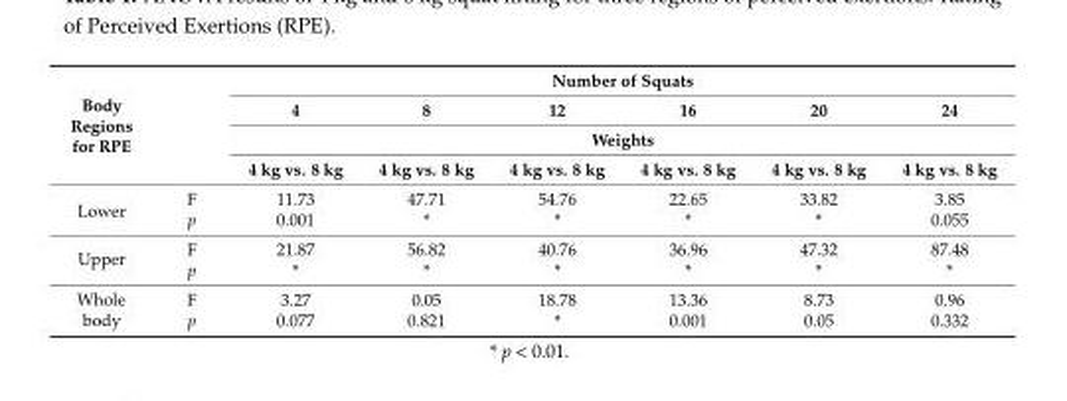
<table><thead><tr><td rowspan="4">Body Regions for RPE</td><td rowspan="4"></td><td colspan="6">Number of Squats</td></tr><tr><td>4</td><td>8</td><td>12</td><td>16</td><td>20</td><td>24</td></tr><tr><td colspan="6">Weights</td></tr><tr><td>4 kg vs. 8 kg</td><td>4 kg vs. 8 kg</td><td>4 kg vs. 8 kg</td><td>4 kg vs. 8 kg</td><td>4 kg vs. 8 kg</td><td>4 kg vs. 8 kg</td></tr></thead><tbody><tr><td rowspan="2">Lower</td><td>F</td><td>11.73</td><td>47.71</td><td>54.76</td><td>22.65</td><td>33.82</td><td>3.85</td></tr><tr><td>p</td><td>0.001</td><td>*</td><td>*</td><td>*</td><td>*</td><td>0.055</td></tr><tr><td rowspan="2">Upper</td><td>F</td><td>21.87</td><td>56.82</td><td>40.76</td><td>36.96</td><td>47.32</td><td>87.48</td></tr><tr><td>p</td><td>*</td><td>*</td><td>*</td><td>*</td><td>*</td><td>*</td></tr><tr><td rowspan="2">Whole body</td><td>F</td><td>3.27</td><td>0.05</td><td>18.78</td><td>13.36</td><td>8.73</td><td>0.96</td></tr><tr><td>p</td><td>0.077</td><td>0.821</td><td>*</td><td>0.001</td><td>0.05</td><td>0.332</td></tr></tbody></table>